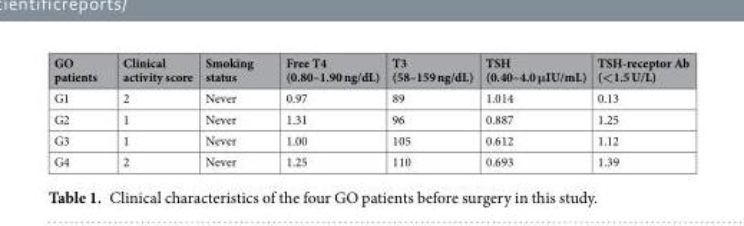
<table><thead><tr><td>GO patients</td><td>Clinical activity score</td><td>Smoking status</td><td>Free T4 (0.80–1.90 ng/dL)</td><td>T3 (58–159 ng/dL)</td><td>TSH (0.40–4.0 μIU/mL)</td><td>TSH-receptor Ab (&lt;1.5 U/L)</td></tr></thead><tbody><tr><td>G1</td><td>2</td><td>Never</td><td>0.97</td><td>89</td><td>1.014</td><td>0.13</td></tr><tr><td>G2</td><td>1</td><td>Never</td><td>1.31</td><td>96</td><td>0.887</td><td>1.25</td></tr><tr><td>G3</td><td>1</td><td>Never</td><td>1.00</td><td>105</td><td>0.612</td><td>1.12</td></tr><tr><td>G4</td><td>2</td><td>Never</td><td>1.25</td><td>110</td><td>0.693</td><td>1.39</td></tr></tbody></table>